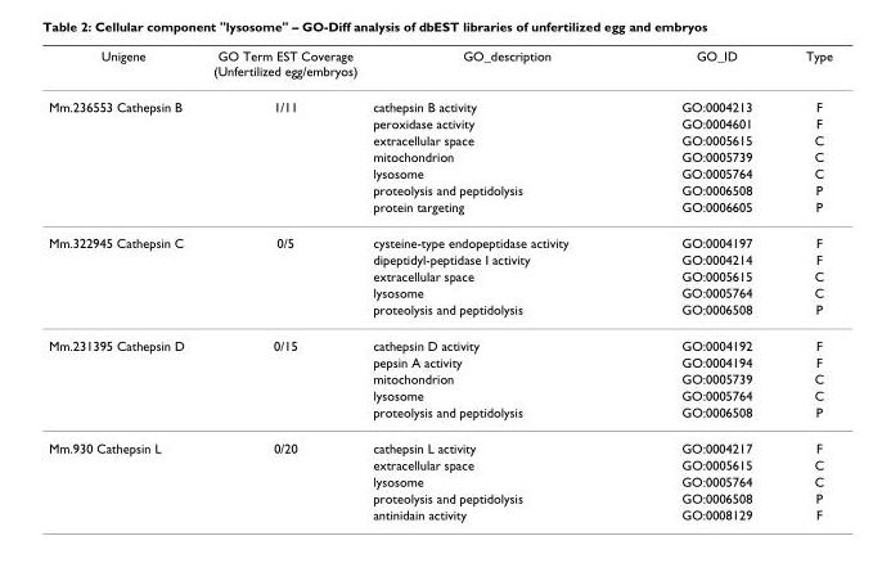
<table><thead><tr><td>Unigene</td><td>GO Term EST Coverage (Unfertilized egg/embryos)</td><td>GO_description</td><td>GO_ID</td><td>Type</td></tr></thead><tbody><tr><td rowspan="7">Mm.236553 Cathepsin B</td><td>1/11</td><td>cathepsin B activity</td><td>GO:0004213</td><td>F</td></tr><tr><td></td><td>peroxidase activity</td><td>GO:0004601</td><td>F</td></tr><tr><td></td><td>extracellular space</td><td>GO:0005615</td><td>C</td></tr><tr><td></td><td>mitochondrion</td><td>GO:0005739</td><td>C</td></tr><tr><td></td><td>lysosome</td><td>GO:0005764</td><td>C</td></tr><tr><td></td><td>proteolysis and peptidolysis</td><td>GO:0006508</td><td>P</td></tr><tr><td></td><td>protein targeting</td><td>GO:0006605</td><td>P</td></tr><tr><td rowspan="5">Mm.322945 Cathepsin C</td><td>0/5</td><td>cysteine-type endopeptidase activity</td><td>GO:0004197</td><td>F</td></tr><tr><td></td><td>dipeptidyl-peptidase I activity</td><td>GO:0004214</td><td>F</td></tr><tr><td></td><td>extracellular space</td><td>GO:0005615</td><td>C</td></tr><tr><td></td><td>lysosome</td><td>GO:0005764</td><td>C</td></tr><tr><td></td><td>proteolysis and peptidolysis</td><td>GO:0006508</td><td>P</td></tr><tr><td rowspan="5">Mm.231395 Cathepsin D</td><td>0/15</td><td>cathepsin D activity</td><td>GO:0004192</td><td>F</td></tr><tr><td></td><td>pepsin A activity</td><td>GO:0004194</td><td>F</td></tr><tr><td></td><td>mitochondrion</td><td>GO:0005739</td><td>C</td></tr><tr><td></td><td>lysosome</td><td>GO:0005764</td><td>C</td></tr><tr><td></td><td>proteolysis and peptidolysis</td><td>GO:0006508</td><td>P</td></tr><tr><td rowspan="5">Mm.930 Cathepsin L</td><td>0/20</td><td>cathepsin L activity</td><td>GO:0004217</td><td>F</td></tr><tr><td></td><td>extracellular space</td><td>GO:0005615</td><td>C</td></tr><tr><td></td><td>lysosome</td><td>GO:0005764</td><td>C</td></tr><tr><td></td><td>proteolysis and peptidolysis</td><td>GO:0006508</td><td>P</td></tr><tr><td></td><td>antinidain activity</td><td>GO:0008129</td><td>F</td></tr></tbody></table>